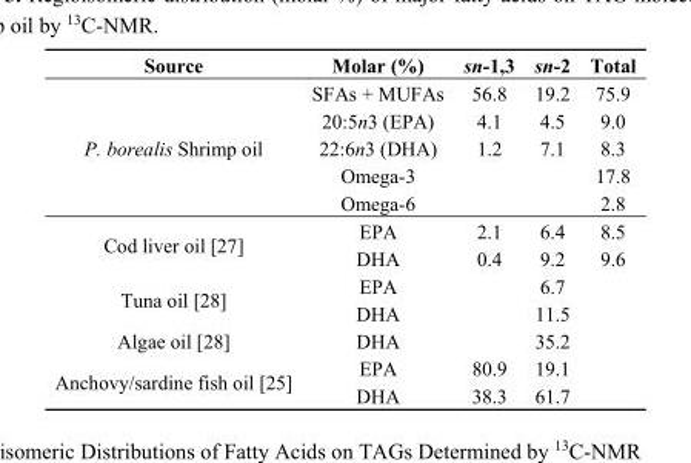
<table><thead><tr><td>Source</td><td>Molar (%)</td><td>sn-1,3</td><td>sn-2</td><td>Total</td></tr></thead><tbody><tr><td rowspan="5">P. borealis Shrimp oil</td><td>SFAs + MUFAs</td><td>56.8</td><td>19.2</td><td>75.9</td></tr><tr><td>20:5n3 (EPA)</td><td>4.1</td><td>4.5</td><td>9.0</td></tr><tr><td>22:6n3 (DHA)</td><td>1.2</td><td>7.1</td><td>8.3</td></tr><tr><td>Omega-3</td><td></td><td></td><td>17.8</td></tr><tr><td>Omega-6</td><td></td><td></td><td>2.8</td></tr><tr><td rowspan="2">Cod liver oil [27]</td><td>EPA</td><td>2.1</td><td>6.4</td><td>8.5</td></tr><tr><td>DHA</td><td>0.4</td><td>9.2</td><td>9.6</td></tr><tr><td rowspan="2">Tuna oil [28]</td><td>EPA</td><td></td><td>6.7</td><td></td></tr><tr><td>DHA</td><td></td><td>11.5</td><td></td></tr><tr><td>Algae oil [28]</td><td>DHA</td><td></td><td>35.2</td><td></td></tr><tr><td rowspan="2">Anchovy/sardine fish oil [25]</td><td>EPA</td><td>80.9</td><td>19.1</td><td></td></tr><tr><td>DHA</td><td>38.3</td><td>61.7</td><td></td></tr></tbody></table>